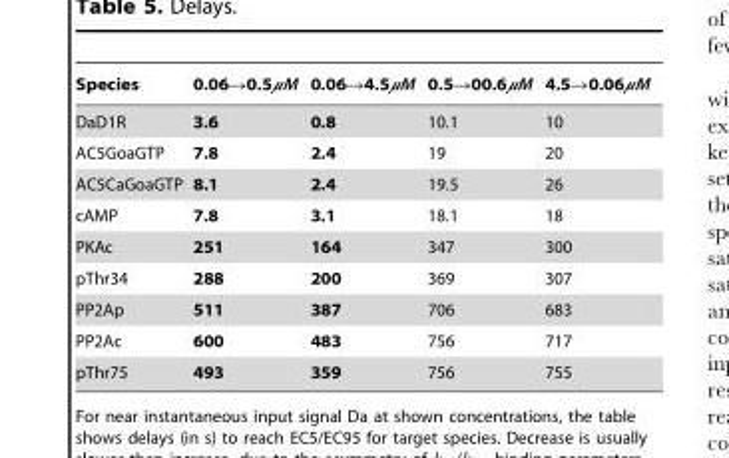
<table><thead><tr><td>Species</td><td>0.06→0.5μM</td><td>0.06→4.5μM</td><td>0.5→00.6μM</td><td>4.5→0.06μM</td></tr></thead><tbody><tr><td>DaD1R</td><td>3.6</td><td>0.8</td><td>10.1</td><td>10</td></tr><tr><td>AC5GoaGTP</td><td>7.8</td><td>2.4</td><td>19</td><td>20</td></tr><tr><td>AC5CaGoaGTP</td><td>8.1</td><td>2.4</td><td>19.5</td><td>26</td></tr><tr><td>cAMP</td><td>7.8</td><td>3.1</td><td>18.1</td><td>18</td></tr><tr><td>PKAc</td><td>251</td><td>164</td><td>347</td><td>300</td></tr><tr><td>pThr34</td><td>288</td><td>200</td><td>369</td><td>307</td></tr><tr><td>PP2Ap</td><td>511</td><td>387</td><td>706</td><td>683</td></tr><tr><td>PP2Ac</td><td>600</td><td>483</td><td>756</td><td>717</td></tr><tr><td>pThr75</td><td>493</td><td>359</td><td>756</td><td>755</td></tr></tbody></table>